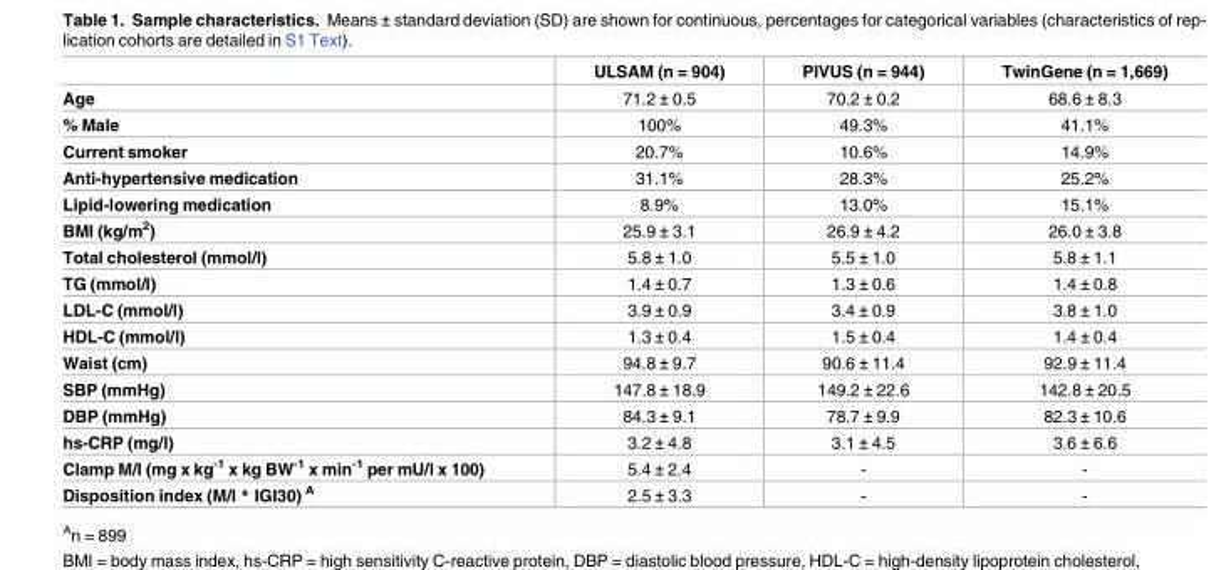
<table><thead><tr><td></td><td>ULSAM (n = 904)</td><td>PIVUS (n = 944)</td><td>TwinGene (n = 1,669)</td></tr></thead><tbody><tr><td>Age</td><td>71.2 ± 0.5</td><td>70.2 ± 0.2</td><td>68.6 ± 8.3</td></tr><tr><td>% Male</td><td>100%</td><td>49.3%</td><td>41.1%</td></tr><tr><td>Current smoker</td><td>20.7%</td><td>10.6%</td><td>14.9%</td></tr><tr><td>Anti-hypertensive medication</td><td>31.1%</td><td>28.3%</td><td>25.2%</td></tr><tr><td>Lipid-lowering medication</td><td>8.9%</td><td>13.0%</td><td>15.1%</td></tr><tr><td>BMI (kg/m<sup>2</sup>)</td><td>25.9 ± 3.1</td><td>26.9 ± 4.2</td><td>26.0 ± 3.8</td></tr><tr><td>Total cholesterol (mmol/l)</td><td>5.8 ± 1.0</td><td>5.5 ± 1.0</td><td>5.8 ± 1.1</td></tr><tr><td>TG (mmol/l)</td><td>1.4 ± 0.7</td><td>1.3 ± 0.6</td><td>1.4 ± 0.8</td></tr><tr><td>LDL-C (mmol/l)</td><td>3.9 ± 0.9</td><td>3.4 ± 0.9</td><td>3.8 ± 1.0</td></tr><tr><td>HDL-C (mmol/l)</td><td>1.3 ± 0.4</td><td>1.5 ± 0.4</td><td>1.4 ± 0.4</td></tr><tr><td>Waist (cm)</td><td>94.8 ± 9.7</td><td>90.6 ± 11.4</td><td>92.9 ± 11.4</td></tr><tr><td>SBP (mmHg)</td><td>147.8 ± 18.9</td><td>149.2 ± 22.6</td><td>142.8 ± 20.5</td></tr><tr><td>DBP (mmHg)</td><td>84.3 ± 9.1</td><td>78.7 ± 9.9</td><td>82.3 ± 10.6</td></tr><tr><td>hs-CRP (mg/l)</td><td>3.2 ± 4.8</td><td>3.1 ± 4.5</td><td>3.6 ± 6.6</td></tr><tr><td>Clamp M/I (mg x kg<sup>-1</sup> x kg BW<sup>-1</sup> x min<sup>-1</sup> per mU/l x 100)</td><td>5.4 ± 2.4</td><td>-</td><td>-</td></tr><tr><td>Disposition index (M/I * IGI30) <sup>A</sup></td><td>2.5 ± 3.3</td><td>-</td><td>-</td></tr></tbody></table>